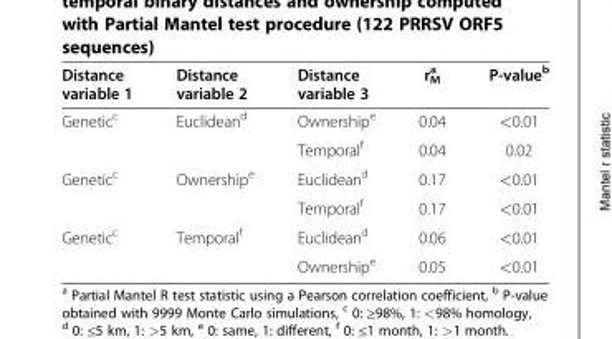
<table><thead><tr><td>Distance variable 1</td><td>Distance variable 2</td><td>Distance variable 3</td><td>r<sub>M</sub> <sup>a</sup></td><td>P-value<sup>b</sup></td></tr></thead><tbody><tr><td rowspan="2">Genetic<sup>c</sup></td><td>Euclidean<sup>d</sup></td><td>Ownership<sup>e</sup></td><td>0.04</td><td>&lt;0.01</td></tr><tr><td></td><td>Temporal<sup>f</sup></td><td>0.04</td><td>0.02</td></tr><tr><td rowspan="2">Genetic<sup>c</sup></td><td>Ownership<sup>e</sup></td><td>Euclidean<sup>d</sup></td><td>0.17</td><td>&lt;0.01</td></tr><tr><td></td><td>Temporal<sup>f</sup></td><td>0.17</td><td>&lt;0.01</td></tr><tr><td rowspan="2">Genetic<sup>c</sup></td><td>Temporal<sup>f</sup></td><td>Euclidean<sup>d</sup></td><td>0.06</td><td>&lt;0.01</td></tr><tr><td></td><td>Ownership<sup>e</sup></td><td>0.05</td><td>&lt;0.01</td></tr></tbody></table>